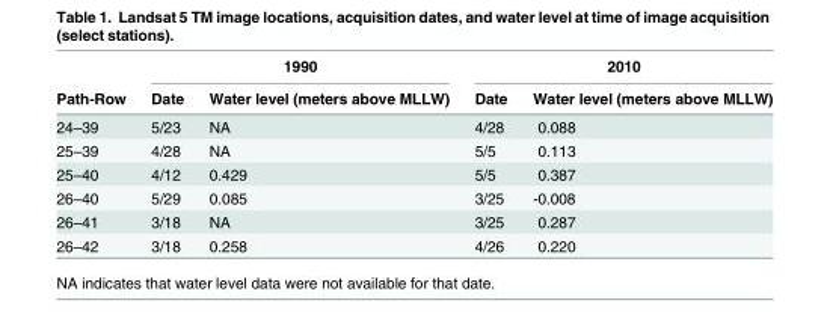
<table><thead><tr><td rowspan="2">Path-Row</td><td colspan="2">1990</td><td colspan="2">2010</td></tr><tr><td>Date</td><td>Water level (meters above MLLW)</td><td>Date</td><td>Water level (meters above MLLW)</td></tr></thead><tbody><tr><td>24–39</td><td>5/23</td><td>NA</td><td>4/28</td><td>0.088</td></tr><tr><td>25–39</td><td>4/28</td><td>NA</td><td>5/5</td><td>0.113</td></tr><tr><td>25–40</td><td>4/12</td><td>0.429</td><td>5/5</td><td>0.387</td></tr><tr><td>26–40</td><td>5/29</td><td>0.085</td><td>3/25</td><td>-0.008</td></tr><tr><td>26–41</td><td>3/18</td><td>NA</td><td>3/25</td><td>0.287</td></tr><tr><td>26–42</td><td>3/18</td><td>0.258</td><td>4/26</td><td>0.220</td></tr></tbody></table>